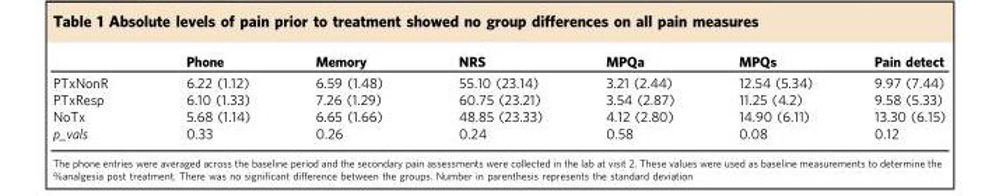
<table><thead><tr><td></td><td>Phone</td><td>Memory</td><td>NRS</td><td>MPQa</td><td>MPQs</td><td>Pain detect</td></tr></thead><tbody><tr><td>PTxNonR</td><td>6.22 (1.12)</td><td>6.59 (1.48)</td><td>55.10 (23.14)</td><td>3.21 (2.44)</td><td>12.54 (5.34)</td><td>9.97 (7.44)</td></tr><tr><td>PTxResp</td><td>6.10 (1.33)</td><td>7.26 (1.29)</td><td>60.75 (23.21)</td><td>3.54 (2.87)</td><td>11.25 (4.2)</td><td>9.58 (5.33)</td></tr><tr><td>NoTx</td><td>5.68 (1.14)</td><td>6.65 (1.66)</td><td>48.85 (23.33)</td><td>4.12 (2.80)</td><td>14.90 (6.11)</td><td>13.30 (6.15)</td></tr><tr><td>p_vals</td><td>0.33</td><td>0.26</td><td>0.24</td><td>0.58</td><td>0.08</td><td>0.12</td></tr></tbody></table>